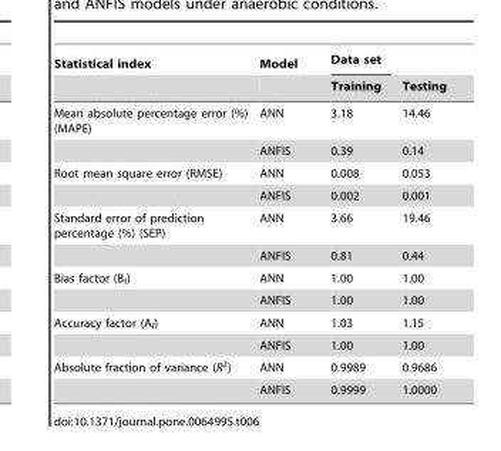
<table><thead><tr><td rowspan="2">Statistical index</td><td rowspan="2">Model</td><td rowspan="2">Data set Training</td><td rowspan="2">Testing</td></tr><tr></tr></thead><tbody><tr><td rowspan="2">Mean absolute percentage error (%) (MAPE)</td><td>ANN</td><td>3.18</td><td>14.46</td></tr><tr><td>ANFIS</td><td>0.39</td><td>0.14</td></tr><tr><td rowspan="2">Root mean square error (RMSE)</td><td>ANN</td><td>0.008</td><td>0.053</td></tr><tr><td>ANFIS</td><td>0.002</td><td>0.001</td></tr><tr><td rowspan="2">Standard error of prediction percentage (%) (SEP)</td><td>ANN</td><td>3.66</td><td>19.46</td></tr><tr><td>ANFIS</td><td>0.81</td><td>0.44</td></tr><tr><td rowspan="2">Bias factor (B<sub>f</sub>)</td><td>ANN</td><td>1.00</td><td>1.00</td></tr><tr><td>ANFIS</td><td>1.00</td><td>1.00</td></tr><tr><td rowspan="2">Accuracy factor (A<sub>f</sub>)</td><td>ANN</td><td>1.03</td><td>1.15</td></tr><tr><td>ANFIS</td><td>1.00</td><td>1.00</td></tr><tr><td rowspan="2">Absolute fraction of variance (R<sup>2</sup>)</td><td>ANN</td><td>0.9989</td><td>0.9686</td></tr><tr><td>ANFIS</td><td>0.9999</td><td>1.0000</td></tr></tbody></table>